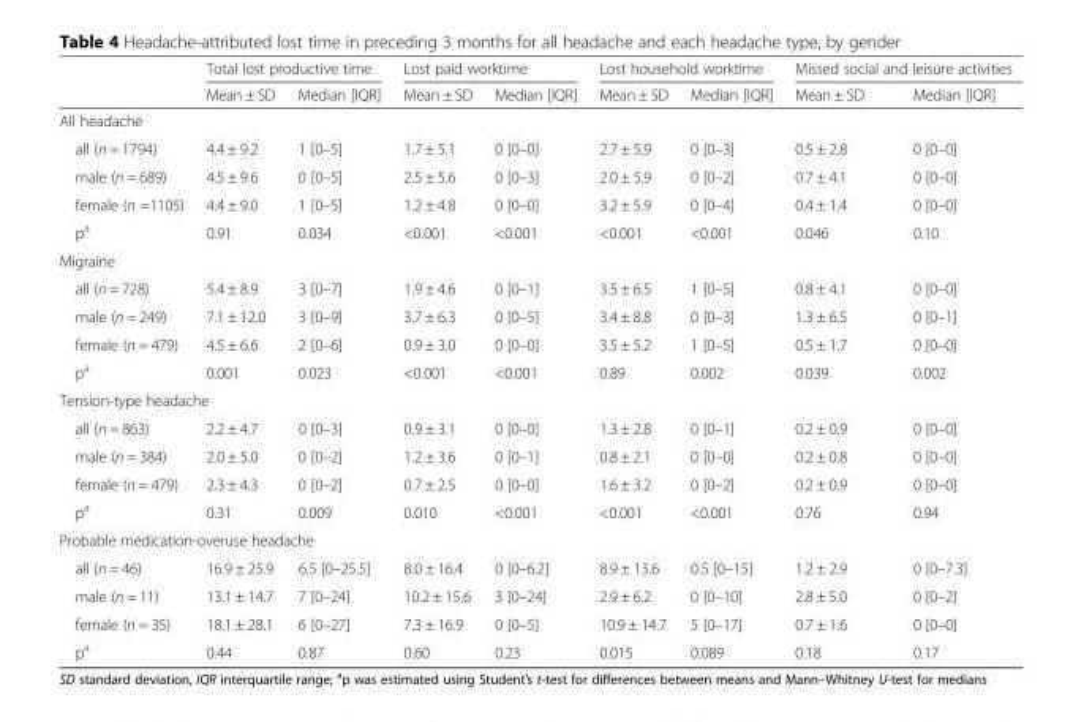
<table><thead><tr><td rowspan="2"></td><td colspan="2">Total lost productive time</td><td colspan="2">Lost paid worktime</td><td colspan="2">Lost household worktime</td><td colspan="2">Missed social and leisure activities</td></tr><tr><td>Mean ± SD</td><td>Median [IQR]</td><td>Mean ± SD</td><td>Median [IQR]</td><td>Mean ± SD</td><td>Median [IQR]</td><td>Mean ± SD</td><td>Median [IQR]</td></tr></thead><tbody><tr><td colspan="9">All headache</td></tr><tr><td>all (n = 1794)</td><td>4.4 ± 9.2</td><td>1 [0–5]</td><td>1.7 ± 5.1</td><td>0 [0–0]</td><td>2.7 ± 5.9</td><td>0 [0–3]</td><td>0.5 ± 2.8</td><td>0 [0–0]</td></tr><tr><td>male (n = 689)</td><td>4.5 ± 9.6</td><td>0 [0–5]</td><td>2.5 ± 5.6</td><td>0 [0–3]</td><td>2.0 ± 5.9</td><td>0 [0–2]</td><td>0.7 ± 4.1</td><td>0 [0–0]</td></tr><tr><td>female (n =1105)</td><td>4.4 ± 9.0</td><td>1 [0–5]</td><td>1.2 ± 4.8</td><td>0 [0–0]</td><td>3.2 ± 5.9</td><td>0 [0–4]</td><td>0.4 ± 1.4</td><td>0 [0–0]</td></tr><tr><td>p<sup>a</sup></td><td>0.91</td><td>0.034</td><td>&lt;0.001</td><td>&lt;0.001</td><td>&lt;0.001</td><td>&lt;0.001</td><td>0.046</td><td>0.10</td></tr><tr><td colspan="9">Migraine</td></tr><tr><td>all (n = 728)</td><td>5.4 ± 8.9</td><td>3 [0–7]</td><td>1.9 ± 4.6</td><td>0 [0–1]</td><td>3.5 ± 6.5</td><td>1 [0–5]</td><td>0.8 ± 4.1</td><td>0 [0–0]</td></tr><tr><td>male (n = 249)</td><td>7.1 ± 12.0</td><td>3 [0–9]</td><td>3.7 ± 6.3</td><td>0 [0–5]</td><td>3.4 ± 8.8</td><td>0 [0–3]</td><td>1.3 ± 6.5</td><td>0 [0–1]</td></tr><tr><td>female (n = 479)</td><td>4.5 ± 6.6</td><td>2 [0–6]</td><td>0.9 ± 3.0</td><td>0 [0–0]</td><td>3.5 ± 5.2</td><td>1 [0–5]</td><td>0.5 ± 1.7</td><td>0 [0–0]</td></tr><tr><td>p<sup>a</sup></td><td>0.001</td><td>0.023</td><td>&lt;0.001</td><td>&lt;0.001</td><td>0.89</td><td>0.002</td><td>0.039</td><td>0.002</td></tr><tr><td colspan="9">Tension-type headache</td></tr><tr><td>all (n = 863)</td><td>2.2 ± 4.7</td><td>0 [0–3]</td><td>0.9 ± 3.1</td><td>0 [0–0]</td><td>1.3 ± 2.8</td><td>0 [0–1]</td><td>0.2 ± 0.9</td><td>0 [0–0]</td></tr><tr><td>male (n = 384)</td><td>2.0 ± 5.0</td><td>0 [0–2]</td><td>1.2 ± 3.6</td><td>0 [0–1]</td><td>0.8 ± 2.1</td><td>0 [0–0]</td><td>0.2 ± 0.8</td><td>0 [0–0]</td></tr><tr><td>female (n = 479)</td><td>2.3 ± 4.3</td><td>0 [0–2]</td><td>0.7 ± 2.5</td><td>0 [0–0]</td><td>1.6 ± 3.2</td><td>0 [0–2]</td><td>0.2 ± 0.9</td><td>0 [0–0]</td></tr><tr><td>p<sup>a</sup></td><td>0.31</td><td>0.009</td><td>0.010</td><td>&lt;0.001</td><td>&lt;0.001</td><td>&lt;0.001</td><td>0.76</td><td>0.94</td></tr><tr><td colspan="9">Probable medication-overuse headache</td></tr><tr><td>all (n = 46)</td><td>16.9 ± 25.9</td><td>6.5 [0–25.5]</td><td>8.0 ± 16.4</td><td>0 [0–6.2]</td><td>8.9 ± 13.6</td><td>0.5 [0–15]</td><td>1.2 ± 2.9</td><td>0 [0–7.3]</td></tr><tr><td>male (n = 11)</td><td>13.1 ± 14.7</td><td>7 [0–24]</td><td>10.2 ± 15.6</td><td>3 [0–24]</td><td>2.9 ± 6.2</td><td>0 [0–10]</td><td>2.8 ± 5.0</td><td>0 [0–2]</td></tr><tr><td>female (n = 35)</td><td>18.1 ± 28.1</td><td>6 [0–27]</td><td>7.3 ± 16.9</td><td>0 [0–5]</td><td>10.9 ± 14.7</td><td>5 [0–17]</td><td>0.7 ± 1.6</td><td>0 [0–0]</td></tr><tr><td>p<sup>a</sup></td><td>0.44</td><td>0.87</td><td>0.60</td><td>0.23</td><td>0.015</td><td>0.089</td><td>0.18</td><td>0.17</td></tr></tbody></table>